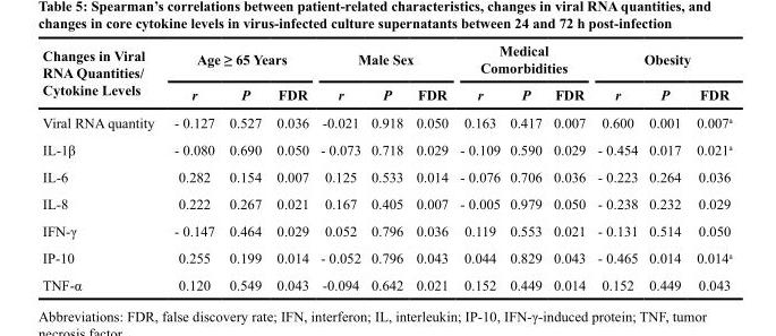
<table><thead><tr><td rowspan="2">Changes in Viral RNA Quantities/ Cytokine Levels</td><td colspan="3">Age ≥ 65 Years</td><td colspan="3">Male Sex</td><td colspan="3">Medical Comorbidities</td><td colspan="3">Obesity</td></tr><tr><td>r</td><td>P</td><td>FDR</td><td>r</td><td>P</td><td>FDR</td><td>r</td><td>P</td><td>FDR</td><td>r</td><td>P</td><td>FDR</td></tr></thead><tbody><tr><td>Viral RNA quantity</td><td>- 0.127</td><td>0.527</td><td>0.036</td><td>-0.021</td><td>0.918</td><td>0.050</td><td>0.163</td><td>0.417</td><td>0.007</td><td>0.600</td><td>0.001</td><td>0.007<sup>a</sup></td></tr><tr><td>IL-1β</td><td>- 0.080</td><td>0.690</td><td>0.050</td><td>- 0.073</td><td>0.718</td><td>0.029</td><td>- 0.109</td><td>0.590</td><td>0.029</td><td>- 0.454</td><td>0.017</td><td>0.021<sup>a</sup></td></tr><tr><td>IL-6</td><td>0.282</td><td>0.154</td><td>0.007</td><td>0.125</td><td>0.533</td><td>0.014</td><td>- 0.076</td><td>0.706</td><td>0.036</td><td>- 0.223</td><td>0.264</td><td>0.036</td></tr><tr><td>IL-8</td><td>0.222</td><td>0.267</td><td>0.021</td><td>0.167</td><td>0.405</td><td>0.007</td><td>- 0.005</td><td>0.979</td><td>0.050</td><td>- 0.238</td><td>0.232</td><td>0.029</td></tr><tr><td>IFN-γ</td><td>- 0.147</td><td>0.464</td><td>0.029</td><td>0.052</td><td>0.796</td><td>0.036</td><td>0.119</td><td>0.553</td><td>0.021</td><td>- 0.131</td><td>0.514</td><td>0.050</td></tr><tr><td>IP-10</td><td>0.255</td><td>0.199</td><td>0.014</td><td>- 0.052</td><td>0.796</td><td>0.043</td><td>0.044</td><td>0.829</td><td>0.043</td><td>- 0.465</td><td>0.014</td><td>0.014<sup>a</sup></td></tr><tr><td>TNF-α</td><td>0.120</td><td>0.549</td><td>0.043</td><td>-0.094</td><td>0.642</td><td>0.021</td><td>0.152</td><td>0.449</td><td>0.014</td><td>0.152</td><td>0.449</td><td>0.043</td></tr></tbody></table>